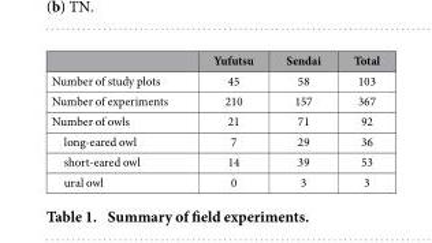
<table><thead><tr><td></td><td>Yufutsu</td><td>Sendai</td><td>Total</td></tr></thead><tbody><tr><td>Number of study plots</td><td>45</td><td>58</td><td>103</td></tr><tr><td>Number of experiments</td><td>210</td><td>157</td><td>367</td></tr><tr><td>Number of owls</td><td>21</td><td>71</td><td>92</td></tr><tr><td>long-eared owl</td><td>7</td><td>29</td><td>36</td></tr><tr><td>short-eared owl</td><td>14</td><td>39</td><td>53</td></tr><tr><td>ural owl</td><td>0</td><td>3</td><td>3</td></tr></tbody></table>